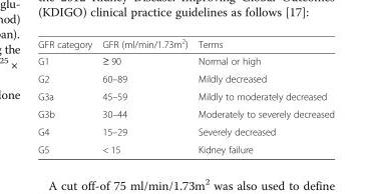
<table><thead><tr><td>GFR category</td><td>GFR (ml/min/1.73m<sup>2</sup>)</td><td>Terms</td></tr></thead><tbody><tr><td>G1</td><td>≥ 90</td><td>Normal or high</td></tr><tr><td>G2</td><td>60–89</td><td>Mildly decreased</td></tr><tr><td>G3a</td><td>45–59</td><td>Mildly to moderately decreased</td></tr><tr><td>G3b</td><td>30–44</td><td>Moderately to severely decreased</td></tr><tr><td>G4</td><td>15–29</td><td>Severely decreased</td></tr><tr><td>G5</td><td>&lt; 15</td><td>Kidney failure</td></tr></tbody></table>